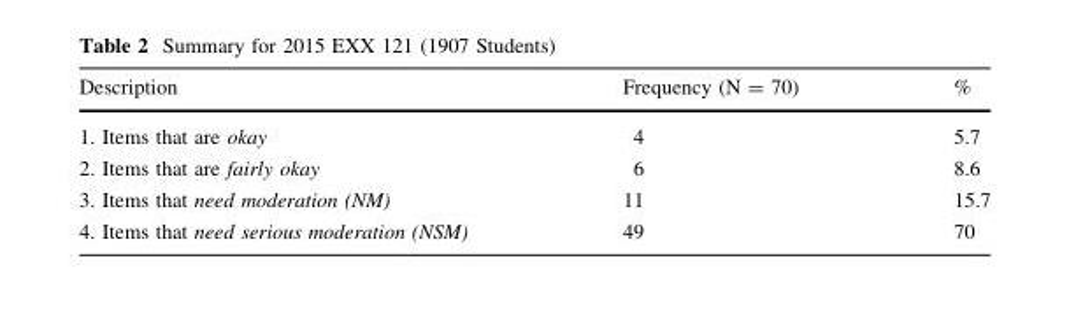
<table><thead><tr><td>Description</td><td>Frequency (N = 70)</td><td>%</td></tr></thead><tbody><tr><td>1. Items that are okay</td><td>4</td><td>5.7</td></tr><tr><td>2. Items that are fairly okay</td><td>6</td><td>8.6</td></tr><tr><td>3. Items that need moderation (NM)</td><td>11</td><td>15.7</td></tr><tr><td>4. Items that need serious moderation (NSM)</td><td>49</td><td>70</td></tr></tbody></table>